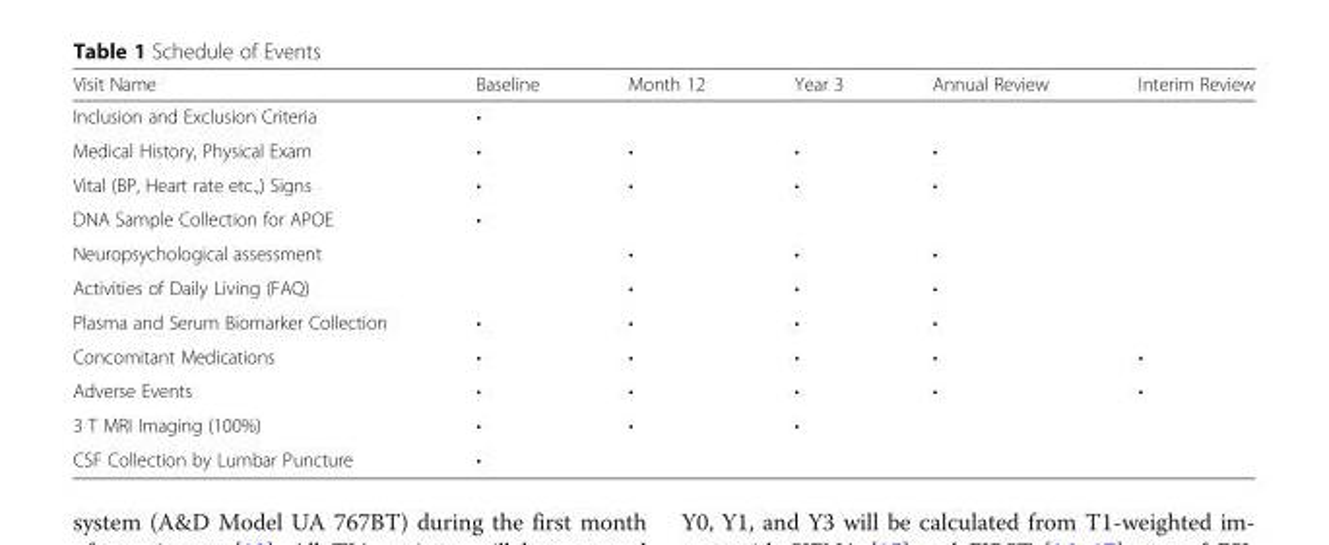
<table><thead><tr><td>Visit Name</td><td>Baseline</td><td>Month 12</td><td>Year 3</td><td>Annual Review</td><td>Interim Review</td></tr></thead><tbody><tr><td>Inclusion and Exclusion Criteria</td><td>•</td><td></td><td></td><td></td><td></td></tr><tr><td>Medical History, Physical Exam</td><td>•</td><td>•</td><td>•</td><td>•</td><td></td></tr><tr><td>Vital (BP, Heart rate etc.,) Signs</td><td>•</td><td>•</td><td>•</td><td>•</td><td></td></tr><tr><td>DNA Sample Collection for APOE</td><td>•</td><td></td><td></td><td></td><td></td></tr><tr><td>Neuropsychological assessment</td><td></td><td>•</td><td>•</td><td>•</td><td></td></tr><tr><td>Activities of Daily Living (FAQ)</td><td></td><td>•</td><td>•</td><td>•</td><td></td></tr><tr><td>Plasma and Serum Biomarker Collection</td><td>•</td><td>•</td><td>•</td><td>•</td><td></td></tr><tr><td>Concomitant Medications</td><td>•</td><td>•</td><td>•</td><td>•</td><td>•</td></tr><tr><td>Adverse Events</td><td>•</td><td>•</td><td>•</td><td>•</td><td>•</td></tr><tr><td>3 T MRI Imaging (100%)</td><td>•</td><td>•</td><td>•</td><td></td><td></td></tr><tr><td>CSF Collection by Lumbar Puncture</td><td>•</td><td></td><td></td><td></td><td></td></tr></tbody></table>